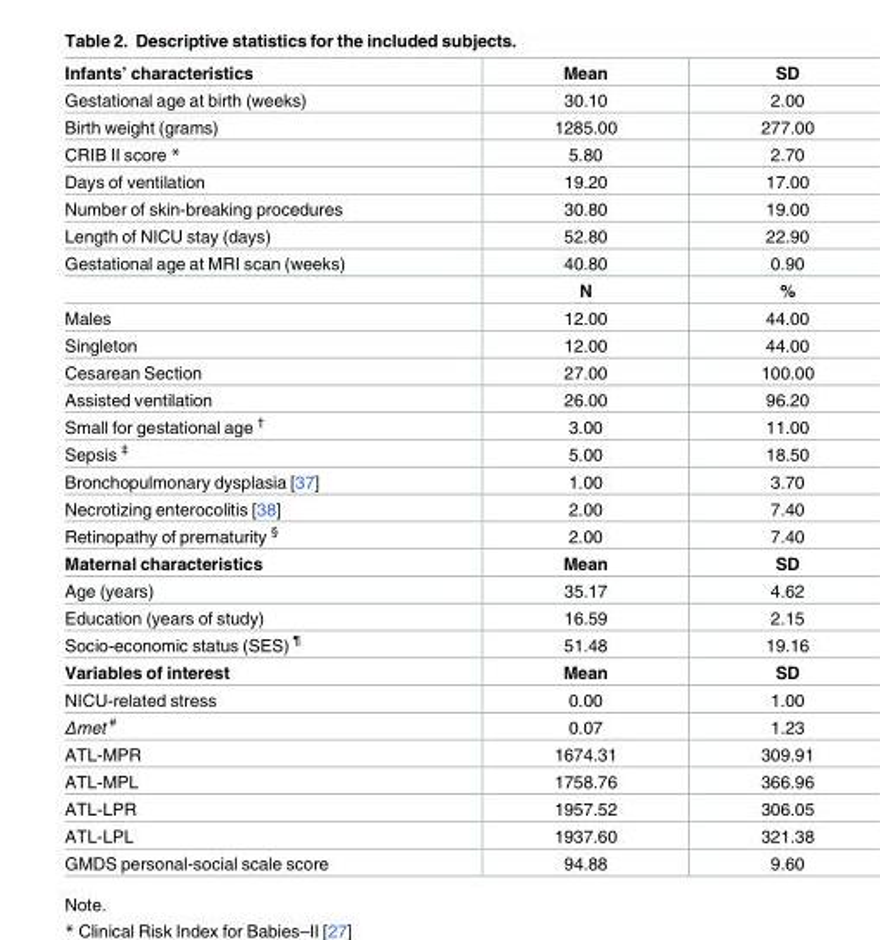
<table><tbody><tr><td>Infants’ characteristics</td><td>Mean</td><td>SD</td></tr><tr><td>Gestational age at birth (weeks)</td><td>30.10</td><td>2.00</td></tr><tr><td>Birth weight (grams)</td><td>1285.00</td><td>277.00</td></tr><tr><td>CRIB II score *</td><td>5.80</td><td>2.70</td></tr><tr><td>Days of ventilation</td><td>19.20</td><td>17.00</td></tr><tr><td>Number of skin-breaking procedures</td><td>30.80</td><td>19.00</td></tr><tr><td>Length of NICU stay (days)</td><td>52.80</td><td>22.90</td></tr><tr><td rowspan="2">Gestational age at MRI scan (weeks)</td><td>40.80</td><td>0.90</td></tr><tr><td>N</td><td>%</td></tr><tr><td>Males</td><td>12.00</td><td>44.00</td></tr><tr><td>Singleton</td><td>12.00</td><td>44.00</td></tr><tr><td>Cesarean Section</td><td>27.00</td><td>100.00</td></tr><tr><td>Assisted ventilation</td><td>26.00</td><td>96.20</td></tr><tr><td>Small for gestational age <sup>†</sup></td><td>3.00</td><td>11.00</td></tr><tr><td>Sepsis <sup>‡</sup></td><td>5.00</td><td>18.50</td></tr><tr><td>Bronchopulmonary dysplasia [37]</td><td>1.00</td><td>3.70</td></tr><tr><td>Necrotizing enterocolitis [38]</td><td>2.00</td><td>7.40</td></tr><tr><td>Retinopathy of prematurity <sup>§</sup></td><td>2.00</td><td>7.40</td></tr><tr><td>Maternal characteristics</td><td>Mean</td><td>SD</td></tr><tr><td>Age (years)</td><td>35.17</td><td>4.62</td></tr><tr><td>Education (years of study)</td><td>16.59</td><td>2.15</td></tr><tr><td>Socio-economic status (SES) <sup>¶</sup></td><td>51.48</td><td>19.16</td></tr><tr><td>Variables of interest</td><td>Mean</td><td>SD</td></tr><tr><td>NICU-related stress</td><td>0.00</td><td>1.00</td></tr><tr><td>Δmet <sup>#</sup></td><td>0.07</td><td>1.23</td></tr><tr><td>ATL-MPR</td><td>1674.31</td><td>309.91</td></tr><tr><td>ATL-MPL</td><td>1758.76</td><td>366.96</td></tr><tr><td>ATL-LPR</td><td>1957.52</td><td>306.05</td></tr><tr><td>ATL-LPL</td><td>1937.60</td><td>321.38</td></tr><tr><td>GMDS personal-social scale score</td><td>94.88</td><td>9.60</td></tr></tbody></table>